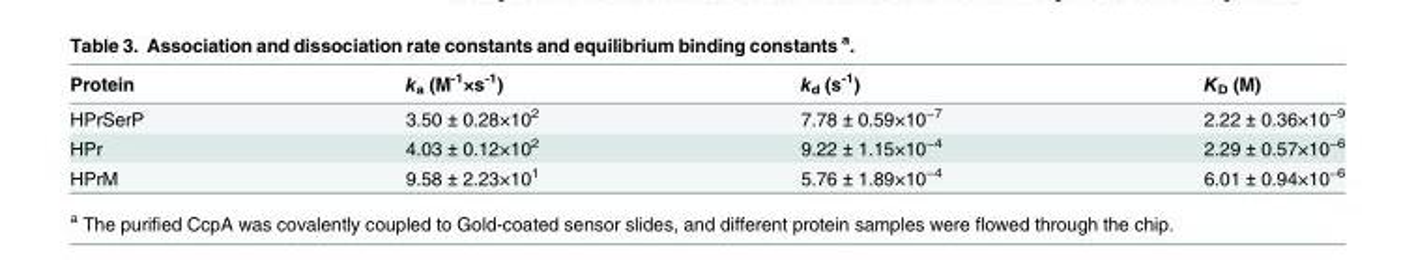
<table><thead><tr><td>Protein</td><td>k<sub>a</sub> (M<sup>-1</sup>×s<sup>-1</sup>)</td><td>k<sub>d</sub> (s<sup>-1</sup>)</td><td>K<sub>D</sub> (M)</td></tr></thead><tbody><tr><td>HPrSerP</td><td>3.50 ± 0.28×10<sup>2</sup></td><td>7.78 ± 0.59×10<sup>−7</sup></td><td>2.22 ± 0.36×10<sup>−9</sup></td></tr><tr><td>HPr</td><td>4.03 ± 0.12×10<sup>2</sup></td><td>9.22 ± 1.15×10<sup>−4</sup></td><td>2.29 ± 0.57×10<sup>−6</sup></td></tr><tr><td>HPrM</td><td>9.58 ± 2.23×10<sup>1</sup></td><td>5.76 ± 1.89×10<sup>−4</sup></td><td>6.01 ± 0.94×10<sup>−6</sup></td></tr></tbody></table>